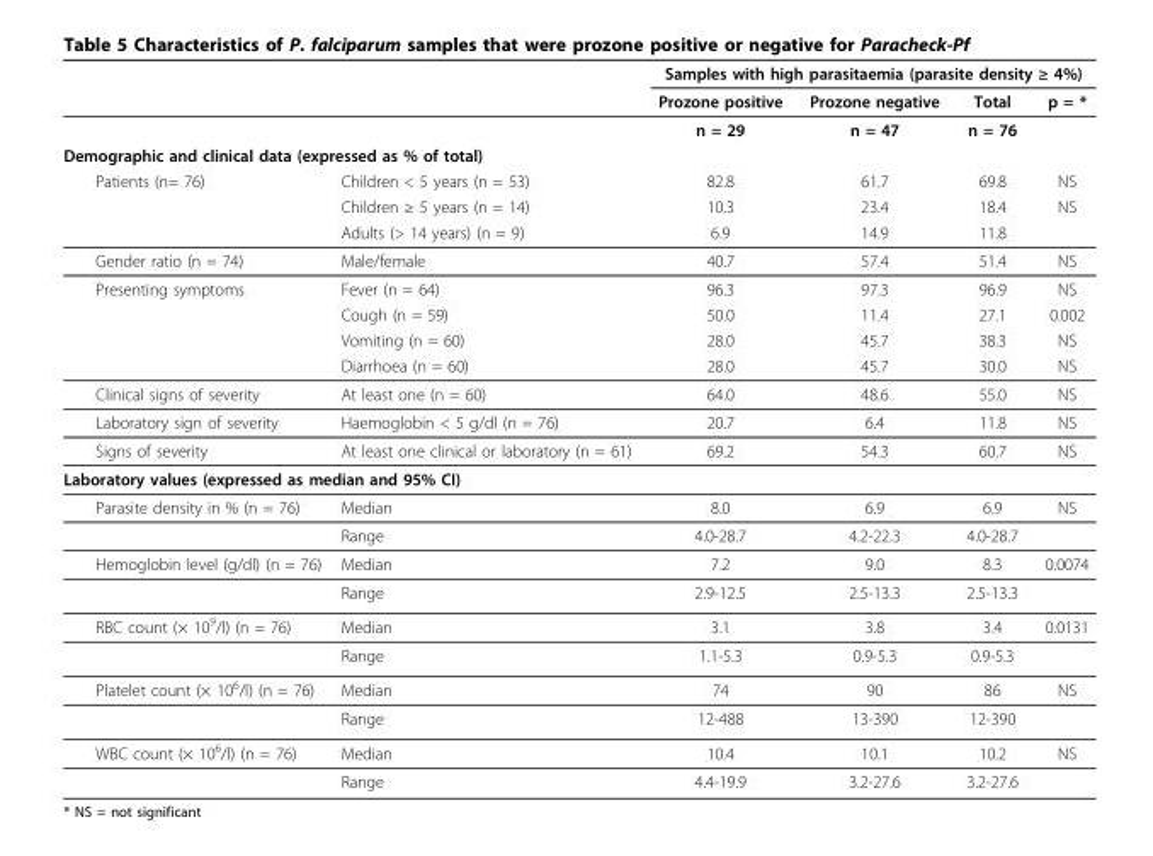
<table><thead><tr><td rowspan="2"></td><td rowspan="2"></td><td colspan="4">Samples with high parasitaemia (parasite density ≥ 4%)</td></tr><tr><td>Prozone positive</td><td>Prozone negative</td><td>Total</td><td>p = *</td></tr></thead><tbody><tr><td></td><td></td><td>n = 29</td><td>n = 47</td><td>n = 76</td><td></td></tr><tr><td colspan="6">Demographic and clinical data (expressed as % of total)</td></tr><tr><td rowspan="3">Patients (n= 76)</td><td>Children &lt; 5 years (n = 53)</td><td>82.8</td><td>61.7</td><td>69.8</td><td>NS</td></tr><tr><td>Children ≥ 5 years (n = 14)</td><td>10.3</td><td>23.4</td><td>18.4</td><td>NS</td></tr><tr><td>Adults (&gt; 14 years) (n = 9)</td><td>6.9</td><td>14.9</td><td>11.8</td><td></td></tr><tr><td>Gender ratio (n = 74)</td><td>Male/female</td><td>40.7</td><td>57.4</td><td>51.4</td><td>NS</td></tr><tr><td rowspan="4">Presenting symptoms</td><td>Fever (n = 64)</td><td>96.3</td><td>97.3</td><td>96.9</td><td>NS</td></tr><tr><td>Cough (n = 59)</td><td>50.0</td><td>11.4</td><td>27.1</td><td>0.002</td></tr><tr><td>Vomiting (n = 60)</td><td>28.0</td><td>45.7</td><td>38.3</td><td>NS</td></tr><tr><td>Diarrhoea (n = 60)</td><td>28.0</td><td>45.7</td><td>30.0</td><td>NS</td></tr><tr><td>Clinical signs of severity</td><td>At least one (n = 60)</td><td>64.0</td><td>48.6</td><td>55.0</td><td>NS</td></tr><tr><td>Laboratory sign of severity</td><td>Haemoglobin &lt; 5 g/dl (n = 76)</td><td>20.7</td><td>6.4</td><td>11.8</td><td>NS</td></tr><tr><td>Signs of severity</td><td>At least one clinical or laboratory (n = 61)</td><td>69.2</td><td>54.3</td><td>60.7</td><td>NS</td></tr><tr><td colspan="6">Laboratory values (expressed as median and 95% CI)</td></tr><tr><td rowspan="2">Parasite density in % (n = 76)</td><td>Median</td><td>8.0</td><td>6.9</td><td>6.9</td><td>NS</td></tr><tr><td>Range</td><td>4.0-28.7</td><td>4.2-22.3</td><td>4.0-28.7</td><td></td></tr><tr><td rowspan="2">Hemoglobin level (g/dl) (n = 76)</td><td>Median</td><td>7.2</td><td>9.0</td><td>8.3</td><td>0.0074</td></tr><tr><td>Range</td><td>2.9-12.5</td><td>2.5-13.3</td><td>2.5-13.3</td><td></td></tr><tr><td rowspan="2">RBC count (× 10<sup>9</sup>/l) (n = 76)</td><td>Median</td><td>3.1</td><td>3.8</td><td>3.4</td><td>0.0131</td></tr><tr><td>Range</td><td>1.1-5.3</td><td>0.9-5.3</td><td>0.9-5.3</td><td></td></tr><tr><td rowspan="2">Platelet count (× 10<sup>6</sup>/l) (n = 76)</td><td>Median</td><td>74</td><td>90</td><td>86</td><td>NS</td></tr><tr><td>Range</td><td>12-488</td><td>13-390</td><td>12-390</td><td></td></tr><tr><td rowspan="2">WBC count (× 10<sup>6</sup>/l) (n = 76)</td><td>Median</td><td>10.4</td><td>10.1</td><td>10.2</td><td>NS</td></tr><tr><td>Range</td><td>4.4-19.9</td><td>3.2-27.6</td><td>3.2-27.6</td><td></td></tr></tbody></table>